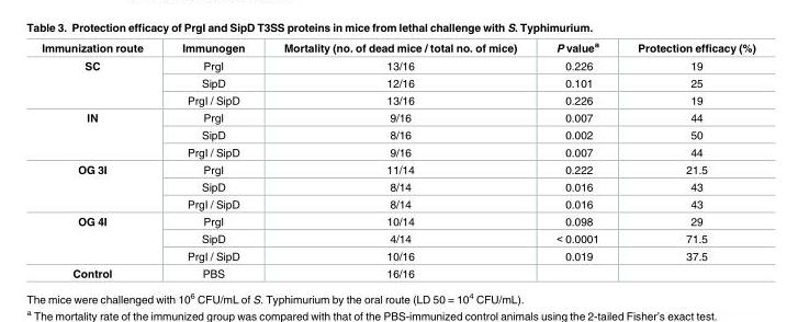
<table><thead><tr><td>Immunization route</td><td>Immunogen</td><td>Mortality (no. of dead mice / total no. of mice)</td><td>P value<sup>a</sup></td><td>Protection efficacy (%)</td></tr></thead><tbody><tr><td rowspan="3">SC</td><td>PrgI</td><td>13/16</td><td>0.226</td><td>19</td></tr><tr><td>SipD</td><td>12/16</td><td>0.101</td><td>25</td></tr><tr><td>PrgI / SipD</td><td>13/16</td><td>0.226</td><td>19</td></tr><tr><td rowspan="3">IN</td><td>PrgI</td><td>9/16</td><td>0.007</td><td>44</td></tr><tr><td>SipD</td><td>8/16</td><td>0.002</td><td>50</td></tr><tr><td>PrgI / SipD</td><td>9/16</td><td>0.007</td><td>44</td></tr><tr><td rowspan="3">OG 3I</td><td>PrgI</td><td>11/14</td><td>0.222</td><td>21.5</td></tr><tr><td>SipD</td><td>8/14</td><td>0.016</td><td>43</td></tr><tr><td>PrgI / SipD</td><td>8/14</td><td>0.016</td><td>43</td></tr><tr><td rowspan="3">OG 4I</td><td>PrgI</td><td>10/14</td><td>0.098</td><td>29</td></tr><tr><td>SipD</td><td>4/14</td><td>&lt; 0.0001</td><td>71.5</td></tr><tr><td>PrgI / SipD</td><td>10/16</td><td>0.019</td><td>37.5</td></tr><tr><td>Control</td><td>PBS</td><td>16/16</td><td></td><td></td></tr></tbody></table>